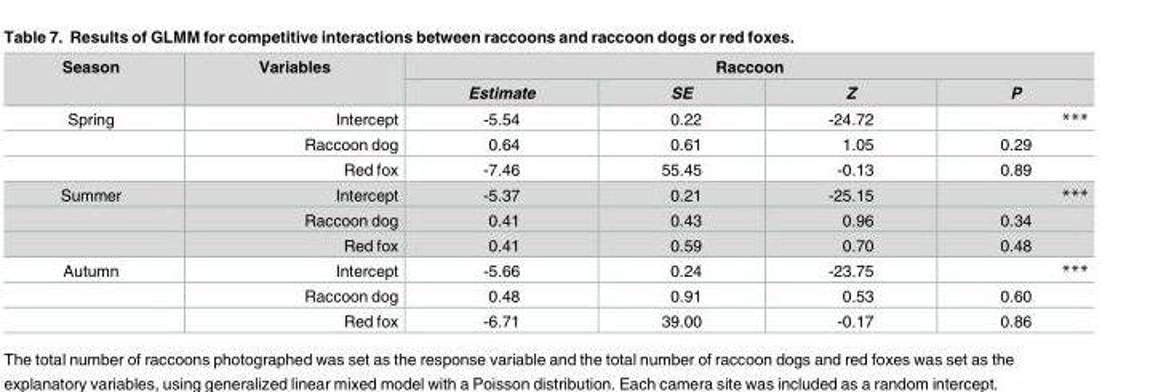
<table><thead><tr><td rowspan="2">Season</td><td rowspan="2">Variables</td><td colspan="4">Raccoon</td></tr><tr><td>Estimate</td><td>SE</td><td>Z</td><td>P</td></tr></thead><tbody><tr><td rowspan="3">Spring</td><td>Intercept</td><td>-5.54</td><td>0.22</td><td>-24.72</td><td>***</td></tr><tr><td>Raccoon dog</td><td>0.64</td><td>0.61</td><td>1.05</td><td>0.29</td></tr><tr><td>Red fox</td><td>-7.46</td><td>55.45</td><td>-0.13</td><td>0.89</td></tr><tr><td rowspan="3">Summer</td><td>Intercept</td><td>-5.37</td><td>0.21</td><td>-25.15</td><td>***</td></tr><tr><td>Raccoon dog</td><td>0.41</td><td>0.43</td><td>0.96</td><td>0.34</td></tr><tr><td>Red fox</td><td>0.41</td><td>0.59</td><td>0.70</td><td>0.48</td></tr><tr><td rowspan="3">Autumn</td><td>Intercept</td><td>-5.66</td><td>0.24</td><td>-23.75</td><td>***</td></tr><tr><td>Raccoon dog</td><td>0.48</td><td>0.91</td><td>0.53</td><td>0.60</td></tr><tr><td>Red fox</td><td>-6.71</td><td>39.00</td><td>-0.17</td><td>0.86</td></tr></tbody></table>